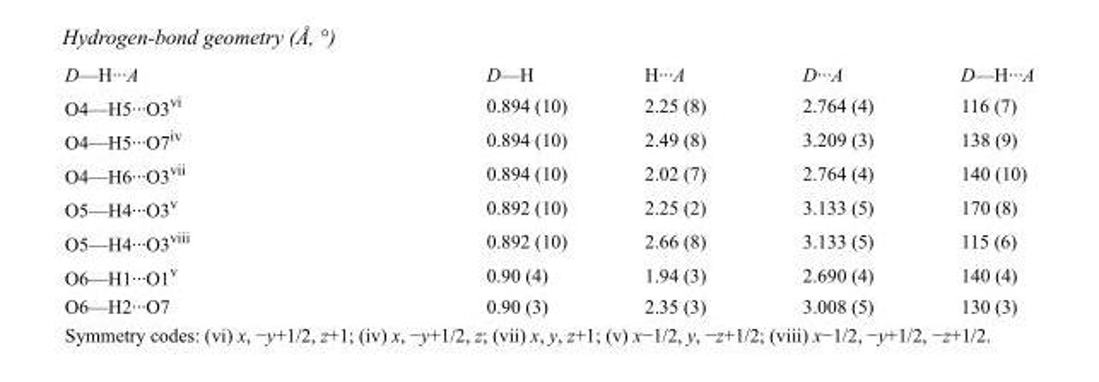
<table><tbody><tr><td>D—H···A</td><td>D—H</td><td>H···A</td><td>D···A</td><td>D—H···A</td></tr><tr><td>O4—H5···O3<sup>vi</sup></td><td>0.894 (10)</td><td>2.25 (8)</td><td>2.764 (4)</td><td>116 (7)</td></tr><tr><td>O4—H5···O7<sup>iv</sup></td><td>0.894 (10)</td><td>2.49 (8)</td><td>3.209 (3)</td><td>138 (9)</td></tr><tr><td>O4—H6···O3<sup>vii</sup></td><td>0.894 (10)</td><td>2.02 (7)</td><td>2.764 (4)</td><td>140 (10)</td></tr><tr><td>O5—H4···O3<sup>v</sup></td><td>0.892 (10)</td><td>2.25 (2)</td><td>3.133 (5)</td><td>170 (8)</td></tr><tr><td>O5—H4···O3<sup>viii</sup></td><td>0.892 (10)</td><td>2.66 (8)</td><td>3.133 (5)</td><td>115 (6)</td></tr><tr><td>O6—H1···O1<sup>v</sup></td><td>0.90 (4)</td><td>1.94 (3)</td><td>2.690 (4)</td><td>140 (4)</td></tr><tr><td>O6—H2···O7</td><td>0.90 (3)</td><td>2.35 (3)</td><td>3.008 (5)</td><td>130 (3)</td></tr></tbody></table>